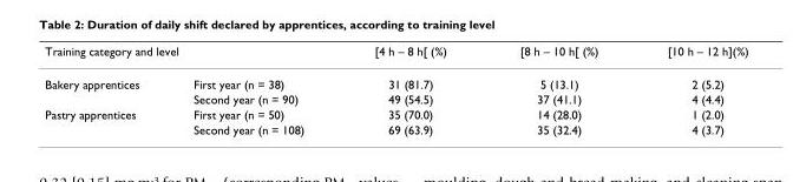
<table><thead><tr><td colspan="2">Training category and level</td><td rowspan="2">[4 h – 8 h[ (%) 31 (81.7)</td><td rowspan="2">[8 h – 10 h[ (%) 5 (13.1)</td><td rowspan="2">[10 h – 12 h](%) 2 (5.2)</td></tr><tr><td>Bakery apprentices</td><td>First year (n = 38)</td></tr></thead><tbody><tr><td></td><td>Second year (n = 90)</td><td>49 (54.5)</td><td>37 (41.1)</td><td>4 (4.4)</td></tr><tr><td rowspan="2">Pastry apprentices</td><td>First year (n = 50)</td><td>35 (70.0)</td><td>14 (28.0)</td><td>1 (2.0)</td></tr><tr><td>Second year (n = 108)</td><td>69 (63.9)</td><td>35 (32.4)</td><td>4 (3.7)</td></tr></tbody></table>